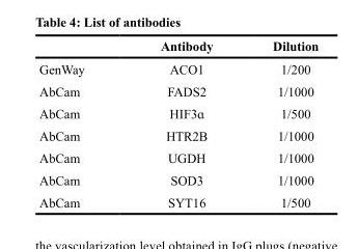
<table><thead><tr><td></td><td>Antibody</td><td>Dilution</td></tr></thead><tbody><tr><td>GenWay</td><td>ACO1</td><td>1/200</td></tr><tr><td>AbCam</td><td>FADS2</td><td>1/1000</td></tr><tr><td>AbCam</td><td>HIF3ɑ</td><td>1/500</td></tr><tr><td>AbCam</td><td>HTR2B</td><td>1/1000</td></tr><tr><td>AbCam</td><td>UGDH</td><td>1/1000</td></tr><tr><td>AbCam</td><td>SOD3</td><td>1/1000</td></tr><tr><td>AbCam</td><td>SYT16</td><td>1/500</td></tr></tbody></table>